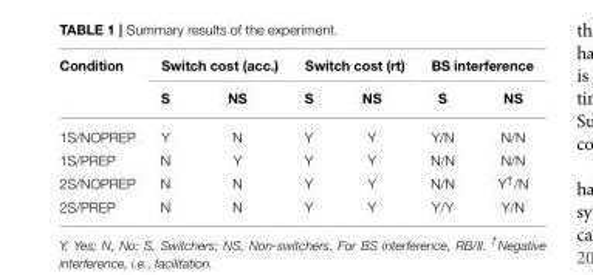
<table><thead><tr><td rowspan="2">Condition</td><td colspan="2">Switch cost (acc.)</td><td colspan="2">Switch cost (rt)</td><td colspan="2">BS interference</td></tr><tr><td>S</td><td>NS</td><td>S</td><td>NS</td><td>S</td><td>NS</td></tr></thead><tbody><tr><td>1S/NOPREP</td><td>Y</td><td>N</td><td>Y</td><td>Y</td><td>Y/N</td><td>N/N</td></tr><tr><td>1S/PREP</td><td>N</td><td>Y</td><td>Y</td><td>Y</td><td>N/N</td><td>N/N</td></tr><tr><td>2S/NOPREP</td><td>N</td><td>N</td><td>Y</td><td>Y</td><td>N/N</td><td>Y<sup>†</sup>/N</td></tr><tr><td>2S/PREP</td><td>N</td><td>N</td><td>Y</td><td>Y</td><td>Y/Y</td><td>Y/N</td></tr></tbody></table>